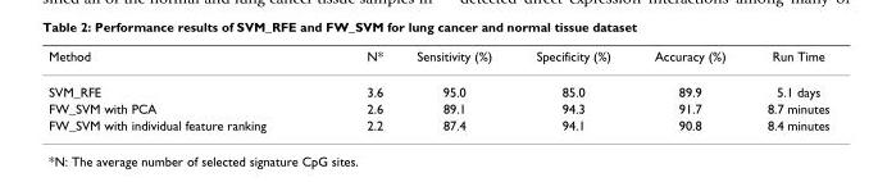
<table><thead><tr><td>Method</td><td>N*</td><td>Sensitivity (%)</td><td>Specificity (%)</td><td>Accuracy (%)</td><td>Run Time</td></tr></thead><tbody><tr><td>SVM_RFE</td><td>3.6</td><td>95.0</td><td>85.0</td><td>89.9</td><td>5.1 days</td></tr><tr><td>FW_SVM with PCA</td><td>2.6</td><td>89.1</td><td>94.3</td><td>91.7</td><td>8.7 minutes</td></tr><tr><td>FW_SVM with individual feature ranking</td><td>2.2</td><td>87.4</td><td>94.1</td><td>90.8</td><td>8.4 minutes</td></tr></tbody></table>